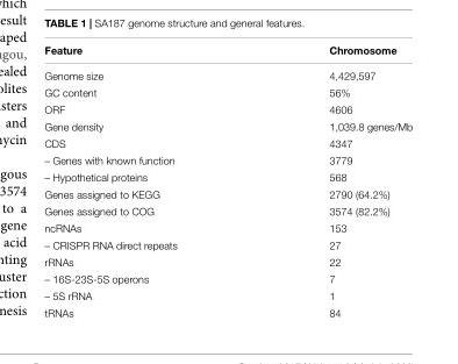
<table><thead><tr><td>Feature</td><td>Chromosome</td></tr></thead><tbody><tr><td>Genome size</td><td>4,429,597</td></tr><tr><td>GC content</td><td>56%</td></tr><tr><td>ORF</td><td>4606</td></tr><tr><td>Gene density</td><td>1,039.8 genes/Mb</td></tr><tr><td>CDS</td><td>4347</td></tr><tr><td>– Genes with known function</td><td>3779</td></tr><tr><td>– Hypothetical proteins</td><td>568</td></tr><tr><td>Genes assigned to KEGG</td><td>2790 (64.2%)</td></tr><tr><td>Genes assigned to COG</td><td>3574 (82.2%)</td></tr><tr><td>ncRNAs</td><td>153</td></tr><tr><td>– CRISPR RNA direct repeats</td><td>27</td></tr><tr><td>rRNAs</td><td>22</td></tr><tr><td>– 16S-23S-5S operons</td><td>7</td></tr><tr><td>– 5S rRNA</td><td>1</td></tr><tr><td>tRNAs</td><td>84</td></tr></tbody></table>